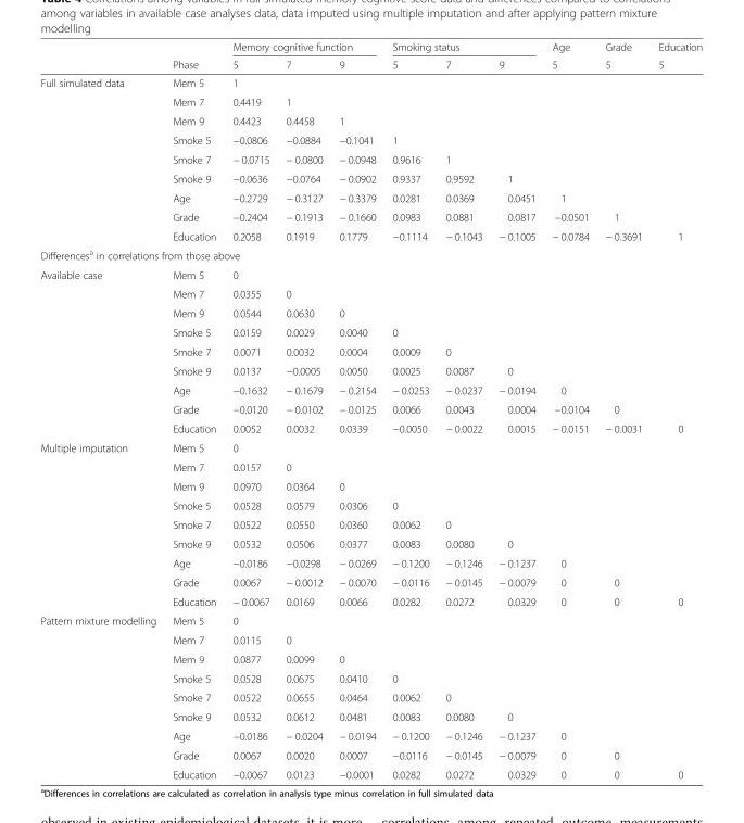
<table><thead><tr><td rowspan="2"></td><td rowspan="2">Phase</td><td colspan="3">Memory cognitive function</td><td colspan="3">Smoking status</td><td rowspan="2">Age 5</td><td rowspan="2">Grade 5</td><td rowspan="2">Education 5</td></tr><tr><td>5</td><td>7</td><td>9</td><td>5</td><td>7</td><td>9</td></tr></thead><tbody><tr><td rowspan="9">Full simulated data</td><td>Mem 5</td><td>1</td><td></td><td></td><td></td><td></td><td></td><td></td><td></td><td></td></tr><tr><td>Mem 7</td><td>0.4419</td><td>1</td><td></td><td></td><td></td><td></td><td></td><td></td><td></td></tr><tr><td>Mem 9</td><td>0.4423</td><td>0.4458</td><td>1</td><td></td><td></td><td></td><td></td><td></td><td></td></tr><tr><td>Smoke 5</td><td>−0.0806</td><td>−0.0884</td><td>−0.1041</td><td>1</td><td></td><td></td><td></td><td></td><td></td></tr><tr><td>Smoke 7</td><td>− 0.0715</td><td>− 0.0800</td><td>− 0.0948</td><td>0.9616</td><td>1</td><td></td><td></td><td></td><td></td></tr><tr><td>Smoke 9</td><td>−0.0636</td><td>−0.0764</td><td>− 0.0902</td><td>0.9337</td><td>0.9592</td><td>1</td><td></td><td></td><td></td></tr><tr><td>Age</td><td>−0.2729</td><td>− 0.3127</td><td>− 0.3379</td><td>0.0281</td><td>0.0369</td><td>0.0451</td><td>1</td><td></td><td></td></tr><tr><td>Grade</td><td>−0.2404</td><td>− 0.1913</td><td>− 0.1660</td><td>0.0983</td><td>0.0881</td><td>0.0817</td><td>−0.0501</td><td>1</td><td></td></tr><tr><td>Education</td><td>0.2058</td><td>0.1919</td><td>0.1779</td><td>−0.1114</td><td>− 0.1043</td><td>− 0.1005</td><td>− 0.0784</td><td>− 0.3691</td><td>1</td></tr><tr><td colspan="11">Differences<sup>a</sup> in correlations from those above</td></tr><tr><td rowspan="9">Available case</td><td>Mem 5</td><td>0</td><td></td><td></td><td></td><td></td><td></td><td></td><td></td><td></td></tr><tr><td>Mem 7</td><td>0.0355</td><td>0</td><td></td><td></td><td></td><td></td><td></td><td></td><td></td></tr><tr><td>Mem 9</td><td>0.0544</td><td>0.0630</td><td>0</td><td></td><td></td><td></td><td></td><td></td><td></td></tr><tr><td>Smoke 5</td><td>0.0159</td><td>0.0029</td><td>0.0040</td><td>0</td><td></td><td></td><td></td><td></td><td></td></tr><tr><td>Smoke 7</td><td>0.0071</td><td>0.0032</td><td>0.0004</td><td>0.0009</td><td>0</td><td></td><td></td><td></td><td></td></tr><tr><td>Smoke 9</td><td>0.0137</td><td>−0.0005</td><td>0.0050</td><td>0.0025</td><td>0.0087</td><td>0</td><td></td><td></td><td></td></tr><tr><td>Age</td><td>−0.1632</td><td>− 0.1679</td><td>− 0.2154</td><td>− 0.0253</td><td>− 0.0237</td><td>− 0.0194</td><td>0</td><td></td><td></td></tr><tr><td>Grade</td><td>−0.0120</td><td>− 0.0102</td><td>− 0.0125</td><td>0.0066</td><td>0.0043</td><td>0.0004</td><td>−0.0104</td><td>0</td><td></td></tr><tr><td>Education</td><td>0.0052</td><td>0.0032</td><td>0.0339</td><td>−0.0050</td><td>− 0.0022</td><td>0.0015</td><td>− 0.0151</td><td>− 0.0031</td><td>0</td></tr><tr><td rowspan="9">Multiple imputation</td><td>Mem 5</td><td>0</td><td></td><td></td><td></td><td></td><td></td><td></td><td></td><td></td></tr><tr><td>Mem 7</td><td>0.0157</td><td>0</td><td></td><td></td><td></td><td></td><td></td><td></td><td></td></tr><tr><td>Mem 9</td><td>0.0970</td><td>0.0364</td><td>0</td><td></td><td></td><td></td><td></td><td></td><td></td></tr><tr><td>Smoke 5</td><td>0.0528</td><td>0.0579</td><td>0.0306</td><td>0</td><td></td><td></td><td></td><td></td><td></td></tr><tr><td>Smoke 7</td><td>0.0522</td><td>0.0550</td><td>0.0360</td><td>0.0062</td><td>0</td><td></td><td></td><td></td><td></td></tr><tr><td>Smoke 9</td><td>0.0532</td><td>0.0506</td><td>0.0377</td><td>0.0083</td><td>0.0080</td><td>0</td><td></td><td></td><td></td></tr><tr><td>Age</td><td>−0.0186</td><td>−0.0298</td><td>− 0.0269</td><td>− 0.1200</td><td>− 0.1246</td><td>− 0.1237</td><td>0</td><td></td><td></td></tr><tr><td>Grade</td><td>0.0067</td><td>− 0.0012</td><td>− 0.0070</td><td>− 0.0116</td><td>− 0.0145</td><td>− 0.0079</td><td>0</td><td>0</td><td></td></tr><tr><td>Education</td><td>− 0.0067</td><td>0.0169</td><td>0.0066</td><td>0.0282</td><td>0.0272</td><td>0.0329</td><td>0</td><td>0</td><td>0</td></tr><tr><td rowspan="9">Pattern mixture modelling</td><td>Mem 5</td><td>0</td><td></td><td></td><td></td><td></td><td></td><td></td><td></td><td></td></tr><tr><td>Mem 7</td><td>0.0115</td><td>0</td><td></td><td></td><td></td><td></td><td></td><td></td><td></td></tr><tr><td>Mem 9</td><td>0.0877</td><td>0.0099</td><td>0</td><td></td><td></td><td></td><td></td><td></td><td></td></tr><tr><td>Smoke 5</td><td>0.0528</td><td>0.0675</td><td>0.0410</td><td>0</td><td></td><td></td><td></td><td></td><td></td></tr><tr><td>Smoke 7</td><td>0.0522</td><td>0.0655</td><td>0.0464</td><td>0.0062</td><td>0</td><td></td><td></td><td></td><td></td></tr><tr><td>Smoke 9</td><td>0.0532</td><td>0.0612</td><td>0.0481</td><td>0.0083</td><td>0.0080</td><td>0</td><td></td><td></td><td></td></tr><tr><td>Age</td><td>−0.0186</td><td>− 0.0204</td><td>− 0.0194</td><td>− 0.1200</td><td>− 0.1246</td><td>− 0.1237</td><td>0</td><td></td><td></td></tr><tr><td>Grade</td><td>0.0067</td><td>0.0020</td><td>0.0007</td><td>−0.0116</td><td>− 0.0145</td><td>− 0.0079</td><td>0</td><td>0</td><td></td></tr><tr><td>Education</td><td>−0.0067</td><td>0.0123</td><td>−0.0001</td><td>0.0282</td><td>0.0272</td><td>0.0329</td><td>0</td><td>0</td><td>0</td></tr></tbody></table>